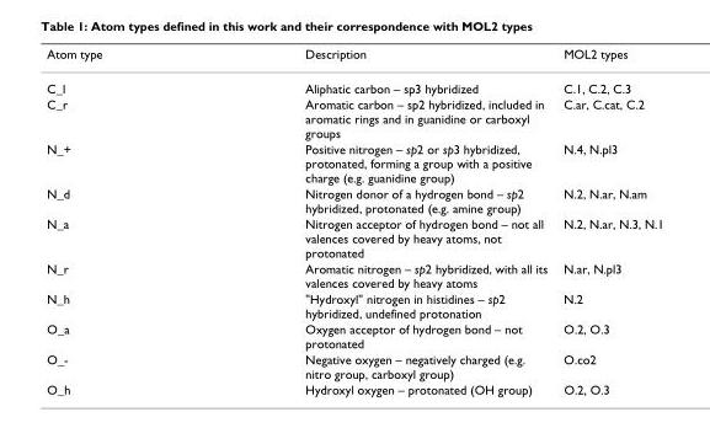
<table><thead><tr><td>Atom type</td><td>Description</td><td>MOL2 types</td></tr></thead><tbody><tr><td>C_l</td><td>Aliphatic carbon – sp3 hybridized</td><td>C.1, C.2, C.3</td></tr><tr><td>C_r</td><td>Aromatic carbon – sp2 hybridized, included in aromatic rings and in guanidine or carboxyl groups</td><td>C.ar, C.cat, C.2</td></tr><tr><td>N_+</td><td>Positive nitrogen – sp2 or sp3 hybridized, protonated, forming a group with a positive charge (e.g. guanidine group)</td><td>N.4, N.pl3</td></tr><tr><td>N_d</td><td>Nitrogen donor of a hydrogen bond – sp2 hybridized, protonated (e.g. amine group)</td><td>N.2, N.ar, N.am</td></tr><tr><td>N_a</td><td>Nitrogen acceptor of hydrogen bond – not all valences covered by heavy atoms, not protonated</td><td>N.2, N.ar, N.3, N.1</td></tr><tr><td>N_r</td><td>Aromatic nitrogen – sp2 hybridized, with all its valences covered by heavy atoms</td><td>N.ar, N.pl3</td></tr><tr><td>N_h</td><td>&quot;Hydroxyl&quot; nitrogen in histidines – sp2 hybridized, undefined protonation</td><td>N.2</td></tr><tr><td>O_a</td><td>Oxygen acceptor of hydrogen bond – not protonated</td><td>O.2, O.3</td></tr><tr><td>O_-</td><td>Negative oxygen – negatively charged (e.g. nitro group, carboxyl group)</td><td>O.co2</td></tr><tr><td>O_h</td><td>Hydroxyl oxygen – protonated (OH group)</td><td>O.2, O.3</td></tr></tbody></table>